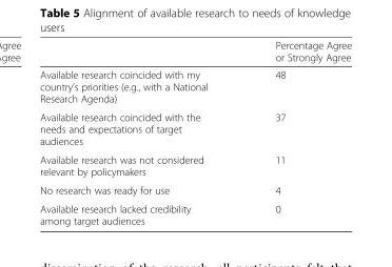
<table><thead><tr><td></td><td>Percentage Agree or Strongly Agree</td></tr></thead><tbody><tr><td>Available research coincided with my country’s priorities (e.g., with a National Research Agenda)</td><td>48</td></tr><tr><td>Available research coincided with the needs and expectations of target audiences</td><td>37</td></tr><tr><td>Available research was not considered relevant by policymakers</td><td>11</td></tr><tr><td>No research was ready for use</td><td>4</td></tr><tr><td>Available research lacked credibility among target audiences</td><td>0</td></tr></tbody></table>